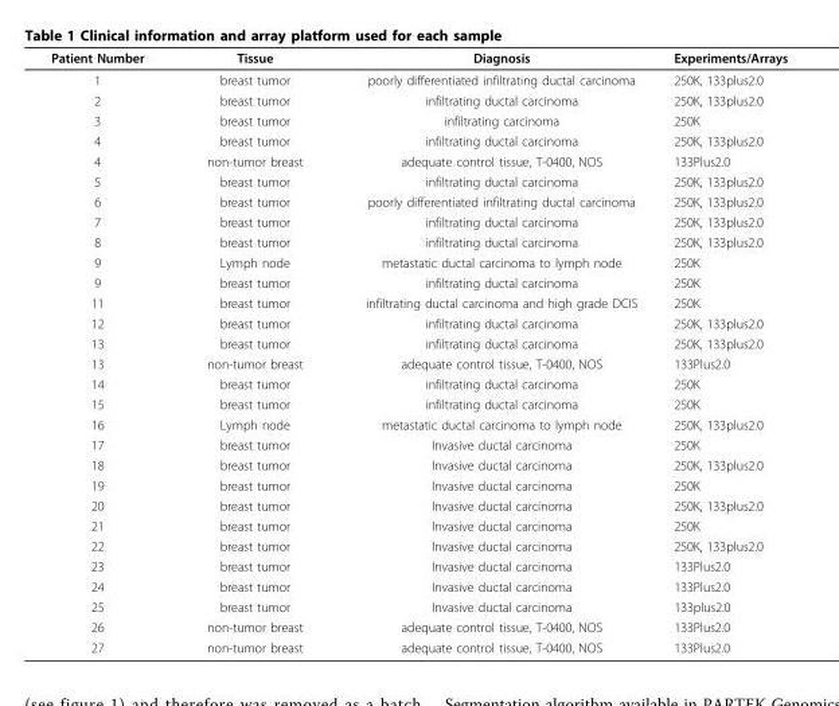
<table><thead><tr><td>Patient Number</td><td>Tissue</td><td>Diagnosis</td><td>Experiments/Arrays</td></tr></thead><tbody><tr><td>1</td><td>breast tumor</td><td>poorly differentiated infiltrating ductal carcinoma</td><td>250K, 133plus2.0</td></tr><tr><td>2</td><td>breast tumor</td><td>infiltrating ductal carcinoma</td><td>250K, 133plus2.0</td></tr><tr><td>3</td><td>breast tumor</td><td>infiltrating carcinoma</td><td>250K</td></tr><tr><td>4</td><td>breast tumor</td><td>infiltrating ductal carcinoma</td><td>250K, 133plus2.0</td></tr><tr><td>4</td><td>non-tumor breast</td><td>adequate control tissue, T-0400, NOS</td><td>133Plus2.0</td></tr><tr><td>5</td><td>breast tumor</td><td>infiltrating ductal carcinoma</td><td>250K, 133plus2.0</td></tr><tr><td>6</td><td>breast tumor</td><td>poorly differentiated infiltrating ductal carcinoma</td><td>250K, 133plus2.0</td></tr><tr><td>7</td><td>breast tumor</td><td>infiltrating ductal carcinoma</td><td>250K, 133plus2.0</td></tr><tr><td>8</td><td>breast tumor</td><td>infiltrating ductal carcinoma</td><td>250K, 133plus2.0</td></tr><tr><td>9</td><td>Lymph node</td><td>metastatic ductal carcinoma to lymph node</td><td>250K</td></tr><tr><td>9</td><td>breast tumor</td><td>infiltrating ductal carcinoma</td><td>250K</td></tr><tr><td>11</td><td>breast tumor</td><td>infiltrating ductal carcinoma and high grade DCIS</td><td>250K</td></tr><tr><td>12</td><td>breast tumor</td><td>infiltrating ductal carcinoma</td><td>250K, 133plus2.0</td></tr><tr><td>13</td><td>breast tumor</td><td>infiltrating ductal carcinoma</td><td>250K, 133plus2.0</td></tr><tr><td>13</td><td>non-tumor breast</td><td>adequate control tissue, T-0400, NOS</td><td>133Plus2.0</td></tr><tr><td>14</td><td>breast tumor</td><td>infiltrating ductal carcinoma</td><td>250K</td></tr><tr><td>15</td><td>breast tumor</td><td>infiltrating ductal carcinoma</td><td>250K</td></tr><tr><td>16</td><td>Lymph node</td><td>metastatic ductal carcinoma to lymph node</td><td>250K, 133plus2.0</td></tr><tr><td>17</td><td>breast tumor</td><td>Invasive ductal carcinoma</td><td>250K</td></tr><tr><td>18</td><td>breast tumor</td><td>Invasive ductal carcinoma</td><td>250K, 133plus2.0</td></tr><tr><td>19</td><td>breast tumor</td><td>Invasive ductal carcinoma</td><td>250K</td></tr><tr><td>20</td><td>breast tumor</td><td>Invasive ductal carcinoma</td><td>250K, 133plus2.0</td></tr><tr><td>21</td><td>breast tumor</td><td>Invasive ductal carcinoma</td><td>250K</td></tr><tr><td>22</td><td>breast tumor</td><td>Invasive ductal carcinoma</td><td>250K, 133plus2.0</td></tr><tr><td>23</td><td>breast tumor</td><td>Invasive ductal carcinoma</td><td>133Plus2.0</td></tr><tr><td>24</td><td>breast tumor</td><td>Invasive ductal carcinoma</td><td>133Plus2.0</td></tr><tr><td>25</td><td>breast tumor</td><td>Invasive ductal carcinoma</td><td>133plus2.0</td></tr><tr><td>26</td><td>non-tumor breast</td><td>adequate control tissue, T-0400, NOS</td><td>133Plus2.0</td></tr><tr><td>27</td><td>non-tumor breast</td><td>adequate control tissue, T-0400, NOS</td><td>133Plus2.0</td></tr></tbody></table>